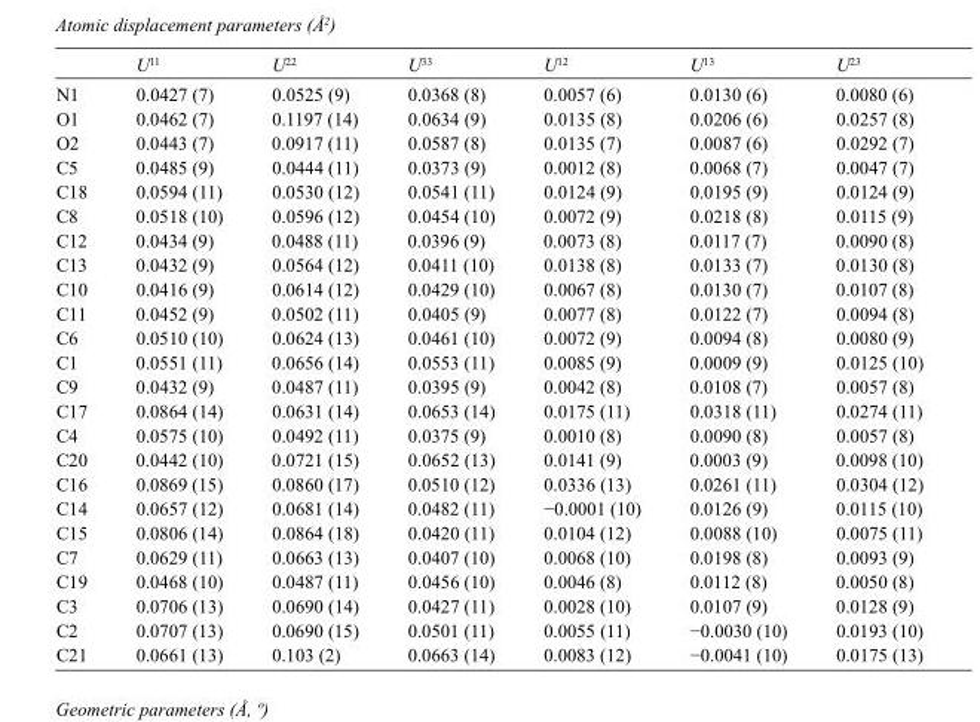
<table><thead><tr><td></td><td>U<sup>11</sup></td><td>U<sup>22</sup></td><td>U<sup>33</sup></td><td>U<sup>12</sup></td><td>U<sup>13</sup></td><td>U<sup>23</sup></td></tr></thead><tbody><tr><td>N1</td><td>0.0427 (7)</td><td>0.0525 (9)</td><td>0.0368 (8)</td><td>0.0057 (6)</td><td>0.0130 (6)</td><td>0.0080 (6)</td></tr><tr><td>O1</td><td>0.0462 (7)</td><td>0.1197 (14)</td><td>0.0634 (9)</td><td>0.0135 (8)</td><td>0.0206 (6)</td><td>0.0257 (8)</td></tr><tr><td>O2</td><td>0.0443 (7)</td><td>0.0917 (11)</td><td>0.0587 (8)</td><td>0.0135 (7)</td><td>0.0087 (6)</td><td>0.0292 (7)</td></tr><tr><td>C5</td><td>0.0485 (9)</td><td>0.0444 (11)</td><td>0.0373 (9)</td><td>0.0012 (8)</td><td>0.0068 (7)</td><td>0.0047 (7)</td></tr><tr><td>C18</td><td>0.0594 (11)</td><td>0.0530 (12)</td><td>0.0541 (11)</td><td>0.0124 (9)</td><td>0.0195 (9)</td><td>0.0124 (9)</td></tr><tr><td>C8</td><td>0.0518 (10)</td><td>0.0596 (12)</td><td>0.0454 (10)</td><td>0.0072 (9)</td><td>0.0218 (8)</td><td>0.0115 (9)</td></tr><tr><td>C12</td><td>0.0434 (9)</td><td>0.0488 (11)</td><td>0.0396 (9)</td><td>0.0073 (8)</td><td>0.0117 (7)</td><td>0.0090 (8)</td></tr><tr><td>C13</td><td>0.0432 (9)</td><td>0.0564 (12)</td><td>0.0411 (10)</td><td>0.0138 (8)</td><td>0.0133 (7)</td><td>0.0130 (8)</td></tr><tr><td>C10</td><td>0.0416 (9)</td><td>0.0614 (12)</td><td>0.0429 (10)</td><td>0.0067 (8)</td><td>0.0130 (7)</td><td>0.0107 (8)</td></tr><tr><td>C11</td><td>0.0452 (9)</td><td>0.0502 (11)</td><td>0.0405 (9)</td><td>0.0077 (8)</td><td>0.0122 (7)</td><td>0.0094 (8)</td></tr><tr><td>C6</td><td>0.0510 (10)</td><td>0.0624 (13)</td><td>0.0461 (10)</td><td>0.0072 (9)</td><td>0.0094 (8)</td><td>0.0080 (9)</td></tr><tr><td>C1</td><td>0.0551 (11)</td><td>0.0656 (14)</td><td>0.0553 (11)</td><td>0.0085 (9)</td><td>0.0009 (9)</td><td>0.0125 (10)</td></tr><tr><td>C9</td><td>0.0432 (9)</td><td>0.0487 (11)</td><td>0.0395 (9)</td><td>0.0042 (8)</td><td>0.0108 (7)</td><td>0.0057 (8)</td></tr><tr><td>C17</td><td>0.0864 (14)</td><td>0.0631 (14)</td><td>0.0653 (14)</td><td>0.0175 (11)</td><td>0.0318 (11)</td><td>0.0274 (11)</td></tr><tr><td>C4</td><td>0.0575 (10)</td><td>0.0492 (11)</td><td>0.0375 (9)</td><td>0.0010 (8)</td><td>0.0090 (8)</td><td>0.0057 (8)</td></tr><tr><td>C20</td><td>0.0442 (10)</td><td>0.0721 (15)</td><td>0.0652 (13)</td><td>0.0141 (9)</td><td>0.0003 (9)</td><td>0.0098 (10)</td></tr><tr><td>C16</td><td>0.0869 (15)</td><td>0.0860 (17)</td><td>0.0510 (12)</td><td>0.0336 (13)</td><td>0.0261 (11)</td><td>0.0304 (12)</td></tr><tr><td>C14</td><td>0.0657 (12)</td><td>0.0681 (14)</td><td>0.0482 (11)</td><td>−0.0001 (10)</td><td>0.0126 (9)</td><td>0.0115 (10)</td></tr><tr><td>C15</td><td>0.0806 (14)</td><td>0.0864 (18)</td><td>0.0420 (11)</td><td>0.0104 (12)</td><td>0.0088 (10)</td><td>0.0075 (11)</td></tr><tr><td>C7</td><td>0.0629 (11)</td><td>0.0663 (13)</td><td>0.0407 (10)</td><td>0.0068 (10)</td><td>0.0198 (8)</td><td>0.0093 (9)</td></tr><tr><td>C19</td><td>0.0468 (10)</td><td>0.0487 (11)</td><td>0.0456 (10)</td><td>0.0046 (8)</td><td>0.0112 (8)</td><td>0.0050 (8)</td></tr><tr><td>C3</td><td>0.0706 (13)</td><td>0.0690 (14)</td><td>0.0427 (11)</td><td>0.0028 (10)</td><td>0.0107 (9)</td><td>0.0128 (9)</td></tr><tr><td>C2</td><td>0.0707 (13)</td><td>0.0690 (15)</td><td>0.0501 (11)</td><td>0.0055 (11)</td><td>−0.0030 (10)</td><td>0.0193 (10)</td></tr><tr><td>C21</td><td>0.0661 (13)</td><td>0.103 (2)</td><td>0.0663 (14)</td><td>0.0083 (12)</td><td>−0.0041 (10)</td><td>0.0175 (13)</td></tr></tbody></table>